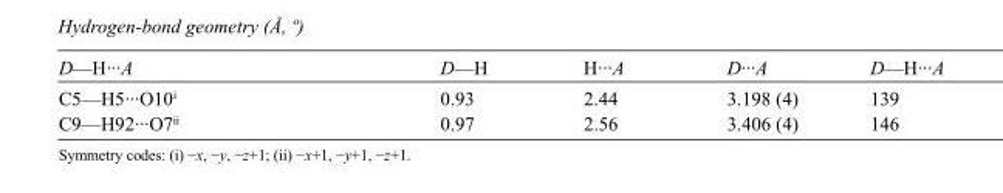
<table><tbody><tr><td>D—H···A</td><td>D—H</td><td>H···A</td><td>D···A</td><td>D—H···A</td></tr><tr><td>C5—H5···O10<sup>i</sup></td><td>0.93</td><td>2.44</td><td>3.198 (4)</td><td>139</td></tr><tr><td>C9—H92···O7<sup>ii</sup></td><td>0.97</td><td>2.56</td><td>3.406 (4)</td><td>146</td></tr></tbody></table>